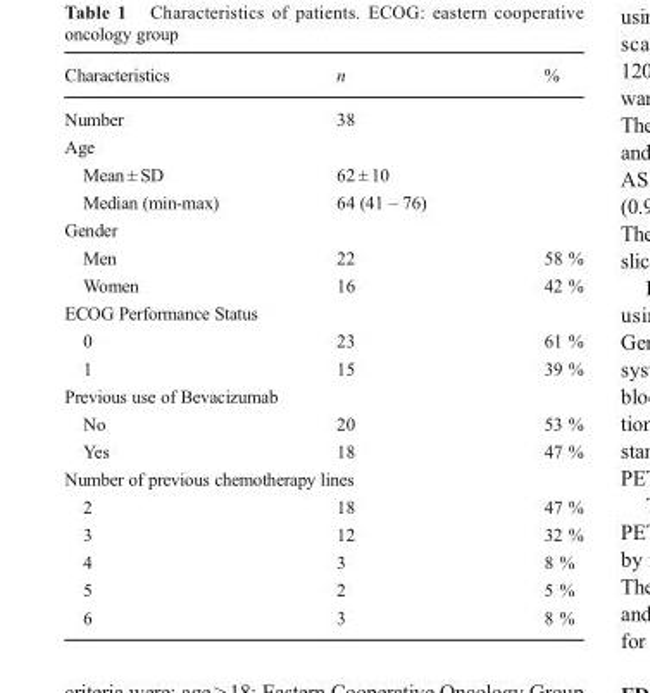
<table><thead><tr><td>Characteristics</td><td>n</td><td>%</td></tr></thead><tbody><tr><td>Number</td><td>38</td><td></td></tr><tr><td colspan="3">Age</td></tr><tr><td>Mean ± SD</td><td>62 ± 10</td><td></td></tr><tr><td>Median (min-max)</td><td>64 (41 – 76)</td><td></td></tr><tr><td colspan="3">Gender</td></tr><tr><td>Men</td><td>22</td><td>58 %</td></tr><tr><td>Women</td><td>16</td><td>42 %</td></tr><tr><td colspan="3">ECOG Performance Status</td></tr><tr><td>0</td><td>23</td><td>61 %</td></tr><tr><td>1</td><td>15</td><td>39 %</td></tr><tr><td colspan="3">Previous use of Bevacizumab</td></tr><tr><td>No</td><td>20</td><td>53 %</td></tr><tr><td>Yes</td><td>18</td><td>47 %</td></tr><tr><td colspan="3">Number of previous chemotherapy lines</td></tr><tr><td>2</td><td>18</td><td>47 %</td></tr><tr><td>3</td><td>12</td><td>32 %</td></tr><tr><td>4</td><td>3</td><td>8 %</td></tr><tr><td>5</td><td>2</td><td>5 %</td></tr><tr><td>6</td><td>3</td><td>8 %</td></tr></tbody></table>